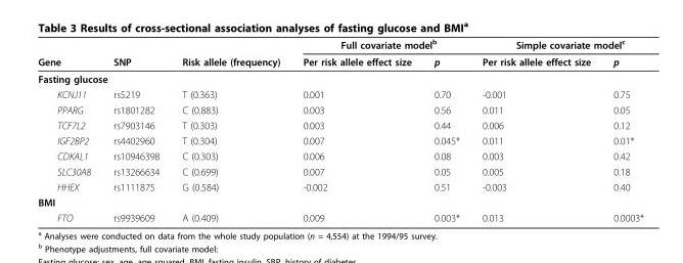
<table><thead><tr><td rowspan="2">Gene</td><td rowspan="2">SNP</td><td rowspan="2">Risk allele (frequency)</td><td colspan="2">Full covariate model<sup>b</sup></td><td colspan="2">Simple covariate model<sup>c</sup></td></tr><tr><td>Per risk allele effect size</td><td>p</td><td>Per risk allele effect size</td><td>p</td></tr></thead><tbody><tr><td colspan="7">Fasting glucose</td></tr><tr><td>KCNJ11</td><td>rs5219</td><td>T (0.363)</td><td>0.001</td><td>0.70</td><td>-0.001</td><td>0.75</td></tr><tr><td>PPARG</td><td>rs1801282</td><td>C (0.883)</td><td>0.003</td><td>0.56</td><td>0.011</td><td>0.05</td></tr><tr><td>TCF7L2</td><td>rs7903146</td><td>T (0.303)</td><td>0.003</td><td>0.44</td><td>0.006</td><td>0.12</td></tr><tr><td>IGF2BP2</td><td>rs4402960</td><td>T (0.304)</td><td>0.007</td><td>0.045*</td><td>0.011</td><td>0.01*</td></tr><tr><td>CDKAL1</td><td>rs10946398</td><td>C (0.303)</td><td>0.006</td><td>0.08</td><td>0.003</td><td>0.42</td></tr><tr><td>SLC30A8</td><td>rs13266634</td><td>C (0.699)</td><td>0.007</td><td>0.05</td><td>0.005</td><td>0.18</td></tr><tr><td>HHEX</td><td>rs1111875</td><td>G (0.584)</td><td>-0.002</td><td>0.51</td><td>-0.003</td><td>0.40</td></tr><tr><td colspan="7">BMI</td></tr><tr><td>FTO</td><td>rs9939609</td><td>A (0.409)</td><td>0.009</td><td>0.003*</td><td>0.013</td><td>0.0003*</td></tr></tbody></table>